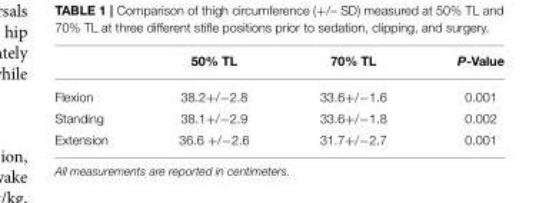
<table><thead><tr><td></td><td>50% TL</td><td>70% TL</td><td>P-Value</td></tr></thead><tbody><tr><td>Flexion</td><td>38.2+/−2.8</td><td>33.6+/−1.6</td><td>0.001</td></tr><tr><td>Standing</td><td>38.1+/−2.9</td><td>33.6+/−1.8</td><td>0.002</td></tr><tr><td>Extension</td><td>36.6 +/−2.6</td><td>31.7+/−2.7</td><td>0.001</td></tr></tbody></table>